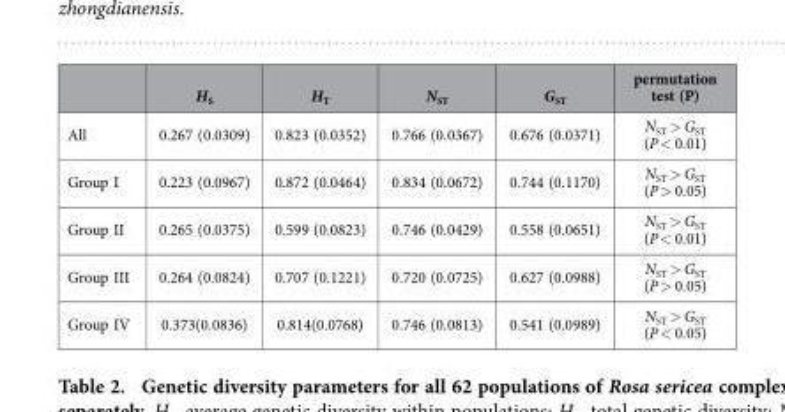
<table><thead><tr><td></td><td>H<sub>S</sub></td><td>H<sub>T</sub></td><td>N<sub>ST</sub></td><td>G<sub>ST</sub></td><td>permutation test (P)</td></tr></thead><tbody><tr><td>All</td><td>0.267 (0.0309)</td><td>0.823 (0.0352)</td><td>0.766 (0.0367)</td><td>0.676 (0.0371)</td><td>N<sub>ST</sub> &gt; G<sub>ST</sub> (P &lt; 0.01)</td></tr><tr><td>Group I</td><td>0.223 (0.0967)</td><td>0.872 (0.0464)</td><td>0.834 (0.0672)</td><td>0.744 (0.1170)</td><td>N<sub>ST</sub> &gt; G<sub>ST</sub> (P &gt; 0.05)</td></tr><tr><td>Group II</td><td>0.265 (0.0375)</td><td>0.599 (0.0823)</td><td>0.746 (0.0429)</td><td>0.558 (0.0651)</td><td>N<sub>ST</sub> &gt; G<sub>ST</sub> (P &lt; 0.01)</td></tr><tr><td>Group III</td><td>0.264 (0.0824)</td><td>0.707 (0.1221)</td><td>0.720 (0.0725)</td><td>0.627 (0.0988)</td><td>N<sub>ST</sub> &gt; G<sub>ST</sub> (P &gt; 0.05)</td></tr><tr><td>Group IV</td><td>0.373(0.0836)</td><td>0.814(0.0768)</td><td>0.746 (0.0813)</td><td>0.541 (0.0989)</td><td>N<sub>ST</sub> &gt; G<sub>ST</sub> (P &lt; 0.05)</td></tr></tbody></table>